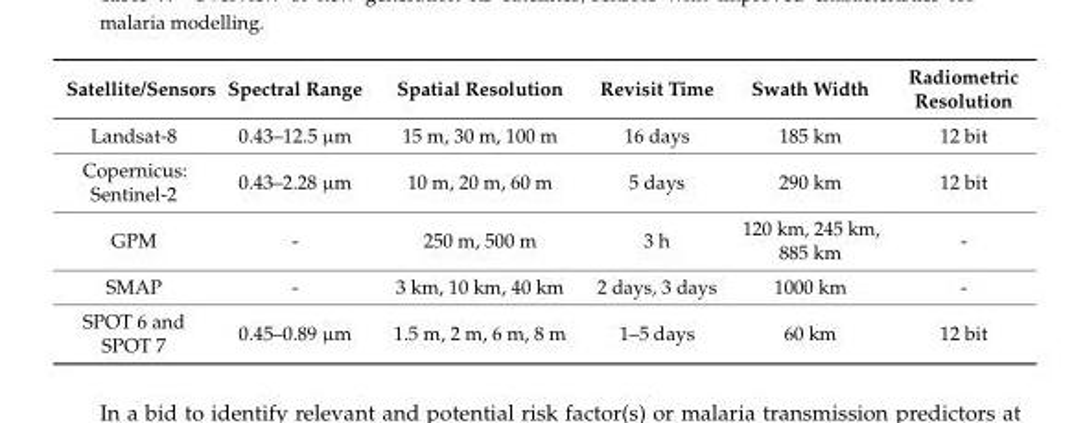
<table><thead><tr><td>Satellite/Sensors</td><td>Spectral Range</td><td>Spatial Resolution</td><td>Revisit Time</td><td>Swath Width</td><td>Radiometric Resolution</td></tr></thead><tbody><tr><td>Landsat-8</td><td>0.43–12.5 µm</td><td>15 m, 30 m, 100 m</td><td>16 days</td><td>185 km</td><td>12 bit</td></tr><tr><td>Copernicus: Sentinel-2</td><td>0.43–2.28 µm</td><td>10 m, 20 m, 60 m</td><td>5 days</td><td>290 km</td><td>12 bit</td></tr><tr><td>GPM</td><td>-</td><td>250 m, 500 m</td><td>3 h</td><td>120 km, 245 km, 885 km</td><td>-</td></tr><tr><td>SMAP</td><td>-</td><td>3 km, 10 km, 40 km</td><td>2 days, 3 days</td><td>1000 km</td><td>-</td></tr><tr><td>SPOT 6 and SPOT 7</td><td>0.45–0.89 µm</td><td>1.5 m, 2 m, 6 m, 8 m</td><td>1–5 days</td><td>60 km</td><td>12 bit</td></tr></tbody></table>